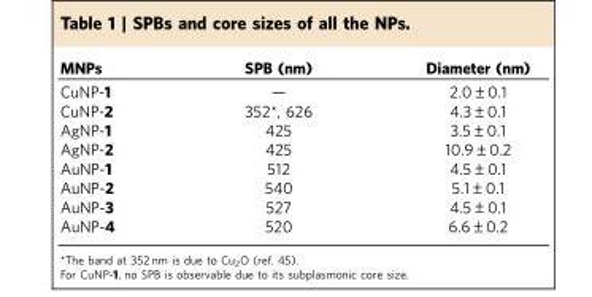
<table><thead><tr><td>MNPs</td><td>SPB (nm)</td><td>Diameter (nm)</td></tr></thead><tbody><tr><td>CuNP-1</td><td>—</td><td>2.0±0.1</td></tr><tr><td>CuNP-2</td><td>352*, 626</td><td>4.3±0.1</td></tr><tr><td>AgNP-1</td><td>425</td><td>3.5±0.1</td></tr><tr><td>AgNP-2</td><td>425</td><td>10.9±0.2</td></tr><tr><td>AuNP-1</td><td>512</td><td>4.5±0.1</td></tr><tr><td>AuNP-2</td><td>540</td><td>5.1±0.1</td></tr><tr><td>AuNP-3</td><td>527</td><td>4.5±0.1</td></tr><tr><td>AuNP-4</td><td>520</td><td>6.6±0.2</td></tr></tbody></table>